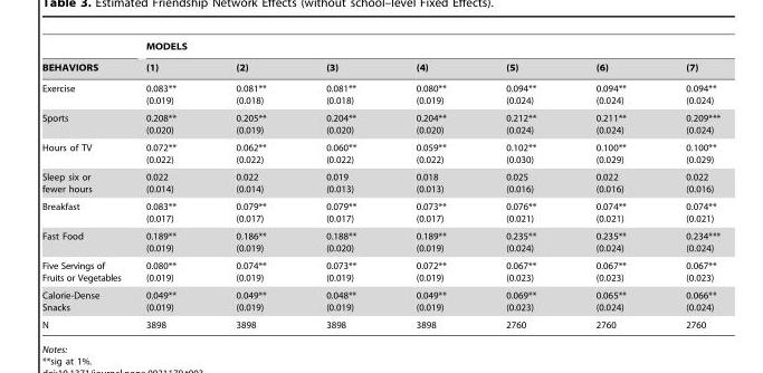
<table><thead><tr><td rowspan="2">BEHAVIORS</td><td colspan="7">MODELS</td></tr><tr><td>(1)</td><td>(2)</td><td>(3)</td><td>(4)</td><td>(5)</td><td>(6)</td><td>(7)</td></tr></thead><tbody><tr><td>Exercise</td><td>0.083** (0.019)</td><td>0.081** (0.018)</td><td>0.081** (0.018)</td><td>0.080** (0.019)</td><td>0.094** (0.024)</td><td>0.094** (0.024)</td><td>0.094** (0.024)</td></tr><tr><td>Sports</td><td>0.208** (0.020)</td><td>0.205** (0.019)</td><td>0.204** (0.020)</td><td>0.204** (0.020)</td><td>0.212** (0.024)</td><td>0.211** (0.024)</td><td>0.209*** (0.024)</td></tr><tr><td>Hours of TV</td><td>0.072** (0.022)</td><td>0.062** (0.022)</td><td>0.060** (0.022)</td><td>0.059** (0.022)</td><td>0.102** (0.030)</td><td>0.100** (0.029)</td><td>0.100** (0.029)</td></tr><tr><td>Sleep six or fewer hours</td><td>0.022 (0.014)</td><td>0.022 (0.014)</td><td>0.019 (0.013)</td><td>0.018 (0.013)</td><td>0.025 (0.016)</td><td>0.022 (0.016)</td><td>0.022 (0.016)</td></tr><tr><td>Breakfast</td><td>0.083** (0.017)</td><td>0.079** (0.017)</td><td>0.079** (0.017)</td><td>0.073** (0.017)</td><td>0.076** (0.021)</td><td>0.074** (0.021)</td><td>0.074** (0.021)</td></tr><tr><td>Fast Food</td><td>0.189** (0.019)</td><td>0.186** (0.019)</td><td>0.188** (0.020)</td><td>0.189** (0.019)</td><td>0.235** (0.024)</td><td>0.235** (0.024)</td><td>0.234*** (0.024)</td></tr><tr><td>Five Servings of Fruits or Vegetables</td><td>0.080** (0.019)</td><td>0.074** (0.019)</td><td>0.073** (0.019)</td><td>0.072** (0.019)</td><td>0.067** (0.023)</td><td>0.067** (0.023)</td><td>0.067** (0.023)</td></tr><tr><td>Calorie-Dense Snacks</td><td>0.049** (0.019)</td><td>0.049** (0.019)</td><td>0.048** (0.019)</td><td>0.049** (0.019)</td><td>0.069** (0.023)</td><td>0.065** (0.024)</td><td>0.066** (0.024)</td></tr><tr><td>N</td><td>3898</td><td>3898</td><td>3898</td><td>3898</td><td>2760</td><td>2760</td><td>2760</td></tr></tbody></table>